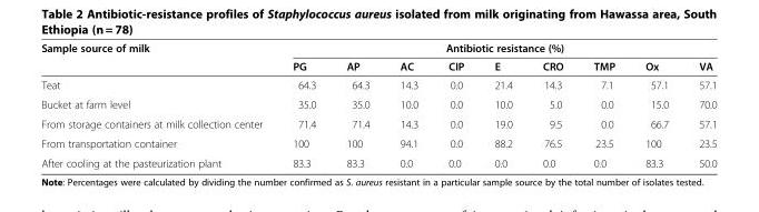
<table><thead><tr><td rowspan="2">Sample source of milk</td><td colspan="9">Antibiotic resistance (%)</td></tr><tr><td>PG</td><td>AP</td><td>AC</td><td>CIP</td><td>E</td><td>CRO</td><td>TMP</td><td>Ox</td><td>VA</td></tr></thead><tbody><tr><td>Teat</td><td>64.3</td><td>64.3</td><td>14.3</td><td>0.0</td><td>21.4</td><td>14.3</td><td>7.1</td><td>57.1</td><td>57.1</td></tr><tr><td>Bucket at farm level</td><td>35.0</td><td>35.0</td><td>10.0</td><td>0.0</td><td>10.0</td><td>5.0</td><td>0.0</td><td>15.0</td><td>70.0</td></tr><tr><td>From storage containers at milk collection center</td><td>71.4</td><td>71.4</td><td>14.3</td><td>0.0</td><td>19.0</td><td>9.5</td><td>0.0</td><td>66.7</td><td>57.1</td></tr><tr><td>From transportation container</td><td>100</td><td>100</td><td>94.1</td><td>0.0</td><td>88.2</td><td>76.5</td><td>23.5</td><td>100</td><td>23.5</td></tr><tr><td>After cooling at the pasteurization plant</td><td>83.3</td><td>83.3</td><td>0.0</td><td>0.0</td><td>0.0</td><td>0.0</td><td>0.0</td><td>83.3</td><td>50.0</td></tr></tbody></table>